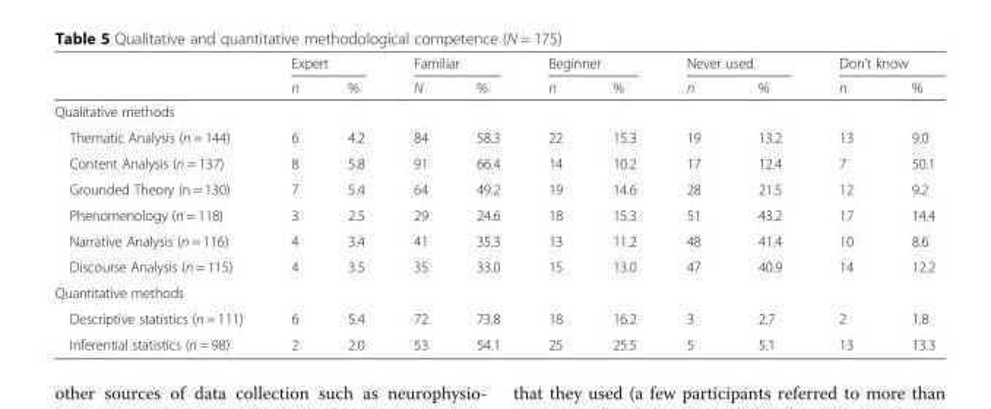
<table><thead><tr><td rowspan="2"></td><td colspan="2">Expert</td><td colspan="2">Familiar</td><td colspan="2">Beginner</td><td colspan="2">Never used</td><td colspan="2">Don’t know</td></tr><tr><td>n</td><td>%</td><td>N</td><td>%</td><td>n</td><td>%</td><td>n</td><td>%</td><td>n</td><td>%</td></tr></thead><tbody><tr><td colspan="11">Qualitative methods</td></tr><tr><td>Thematic Analysis (n = 144)</td><td>6</td><td>4.2</td><td>84</td><td>58.3</td><td>22</td><td>15.3</td><td>19</td><td>13.2</td><td>13</td><td>9.0</td></tr><tr><td>Content Analysis (n = 137)</td><td>8</td><td>5.8</td><td>91</td><td>66.4</td><td>14</td><td>10.2</td><td>17</td><td>12.4</td><td>7</td><td>50.1</td></tr><tr><td>Grounded Theory (n = 130)</td><td>7</td><td>5.4</td><td>64</td><td>49.2</td><td>19</td><td>14.6</td><td>28</td><td>21.5</td><td>12</td><td>9.2</td></tr><tr><td>Phenomenology (n = 118)</td><td>3</td><td>2.5</td><td>29</td><td>24.6</td><td>18</td><td>15.3</td><td>51</td><td>43.2</td><td>17</td><td>14.4</td></tr><tr><td>Narrative Analysis (n = 116)</td><td>4</td><td>3.4</td><td>41</td><td>35.3</td><td>13</td><td>11.2</td><td>48</td><td>41.4</td><td>10</td><td>8.6</td></tr><tr><td>Discourse Analysis (n = 115)</td><td>4</td><td>3.5</td><td>35</td><td>33.0</td><td>15</td><td>13.0</td><td>47</td><td>40.9</td><td>14</td><td>12.2</td></tr><tr><td colspan="11">Quantitative methods</td></tr><tr><td>Descriptive statistics (n = 111)</td><td>6</td><td>5.4</td><td>72</td><td>73.8</td><td>18</td><td>16.2</td><td>3</td><td>2.7</td><td>2</td><td>1.8</td></tr><tr><td>Inferential statistics (n = 98)</td><td>2</td><td>2.0</td><td>53</td><td>54.1</td><td>25</td><td>25.5</td><td>5</td><td>5.1</td><td>13</td><td>13.3</td></tr></tbody></table>